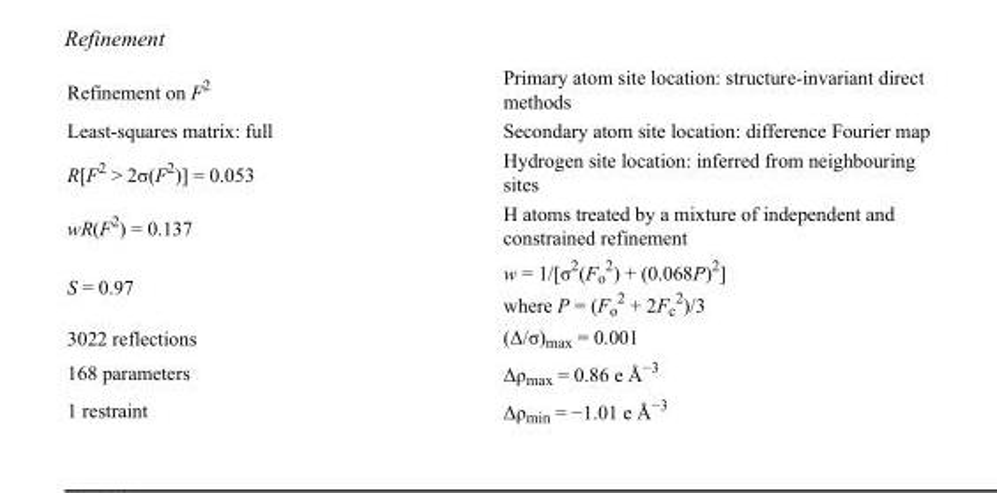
<table><tbody><tr><td>Refinement on F<sup>2</sup></td><td>Primary atom site location: structure-invariant direct methods</td></tr><tr><td>Least-squares matrix: full</td><td>Secondary atom site location: difference Fourier map</td></tr><tr><td>R[F<sup>2</sup> &gt; 2σ(F<sup>2</sup>)] = 0.053</td><td>Hydrogen site location: inferred from neighbouring sites</td></tr><tr><td>wR(F<sup>2</sup>) = 0.137</td><td>H atoms treated by a mixture of independent and constrained refinement</td></tr><tr><td>S = 0.97</td><td>w = 1/[σ<sup>2</sup>(F<sub>o</sub> <sup>2</sup>) + (0.068P)<sup>2</sup>] where P = (F<sub>o</sub> <sup>2</sup> + 2F<sub>c</sub> <sup>2</sup>)/3</td></tr><tr><td>3022 reflections</td><td>(Δ/σ)<sub>max</sub> = 0.001</td></tr><tr><td>168 parameters</td><td>Δρ<sub>max</sub> = 0.86 e Å<sup>−3</sup></td></tr><tr><td>1 restraint</td><td>Δρ<sub>min</sub> = −1.01 e Å<sup>−3</sup></td></tr></tbody></table>